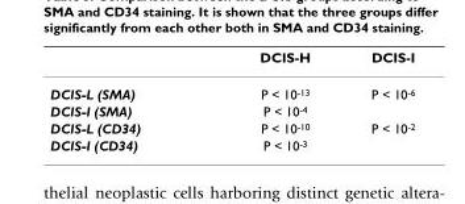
<table><thead><tr><td></td><td>DCIS-H</td><td>DCIS-I</td></tr></thead><tbody><tr><td>DCIS-L (SMA)</td><td>P &lt; 10<sup>-13</sup></td><td>P &lt; 10<sup>-6</sup></td></tr><tr><td>DCIS-I (SMA)</td><td>P &lt; 10<sup>-4</sup></td><td></td></tr><tr><td>DCIS-L (CD34)</td><td>P &lt; 10<sup>-10</sup></td><td>P &lt; 10<sup>-2</sup></td></tr><tr><td>DCIS-I (CD34)</td><td>P &lt; 10<sup>-3</sup></td><td></td></tr></tbody></table>